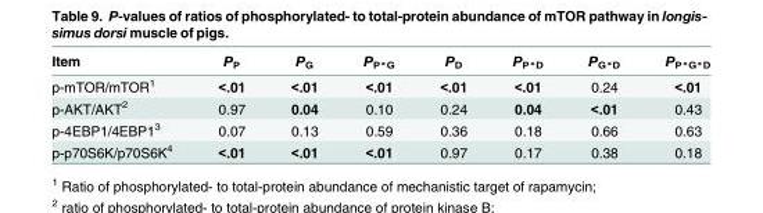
<table><thead><tr><td>Item</td><td>P<sub>P</sub></td><td>P<sub>G</sub></td><td>P<sub>P*G</sub></td><td>P<sub>D</sub></td><td>P<sub>P*D</sub></td><td>P<sub>G*D</sub></td><td>P<sub>P*G*D</sub></td></tr></thead><tbody><tr><td>p-mTOR/mTOR<sup>1</sup></td><td>&lt;.01</td><td>&lt;.01</td><td>&lt;.01</td><td>&lt;.01</td><td>&lt;.01</td><td>0.24</td><td>&lt;.01</td></tr><tr><td>p-AKT/AKT<sup>2</sup></td><td>0.97</td><td>0.04</td><td>0.10</td><td>0.24</td><td>0.04</td><td>&lt;.01</td><td>0.43</td></tr><tr><td>p-4EBP1/4EBP1<sup>3</sup></td><td>0.07</td><td>0.13</td><td>0.59</td><td>0.36</td><td>0.18</td><td>0.66</td><td>0.63</td></tr><tr><td>p-p70S6K/p70S6K<sup>4</sup></td><td>&lt;.01</td><td>&lt;.01</td><td>&lt;.01</td><td>0.97</td><td>0.17</td><td>0.38</td><td>0.18</td></tr></tbody></table>